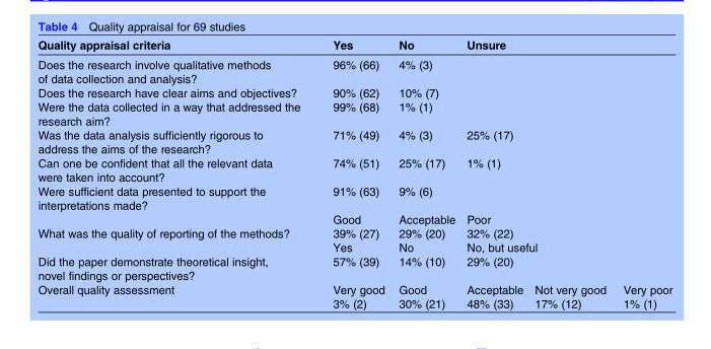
<table><thead><tr><td>Quality appraisal criteria</td><td>Yes</td><td>No</td><td colspan="3">Unsure</td></tr></thead><tbody><tr><td>Does the research involve qualitative methods of data collection and analysis?</td><td>96% (66)</td><td>4% (3)</td><td colspan="3"></td></tr><tr><td>Does the research have clear aims and objectives?</td><td>90% (62)</td><td>10% (7)</td><td colspan="3"></td></tr><tr><td>Were the data collected in a way that addressed the research aim?</td><td>99% (68)</td><td>1% (1)</td><td colspan="3"></td></tr><tr><td>Was the data analysis sufficiently rigorous to address the aims of the research?</td><td>71% (49)</td><td>4% (3)</td><td colspan="3">25% (17)</td></tr><tr><td>Can one be confident that all the relevant data were taken into account?</td><td>74% (51)</td><td>25% (17)</td><td colspan="3">1% (1)</td></tr><tr><td rowspan="2">Were sufficient data presented to support the interpretations made?</td><td>91% (63)</td><td>9% (6)</td><td colspan="3"></td></tr><tr><td>Good</td><td>Acceptable</td><td colspan="3">Poor</td></tr><tr><td rowspan="2">What was the quality of reporting of the methods?</td><td>39% (27)</td><td>29% (20)</td><td colspan="3">32% (22)</td></tr><tr><td>Yes</td><td>No</td><td colspan="3">No, but useful</td></tr><tr><td>Did the paper demonstrate theoretical insight, novel findings or perspectives?</td><td>57% (39)</td><td>14% (10)</td><td colspan="3">29% (20)</td></tr><tr><td rowspan="2">Overall quality assessment</td><td>Very good</td><td>Good</td><td>Acceptable</td><td>Not very good</td><td>Very poor</td></tr><tr><td>3% (2)</td><td>30% (21)</td><td>48% (33)</td><td>17% (12)</td><td>1% (1)</td></tr></tbody></table>